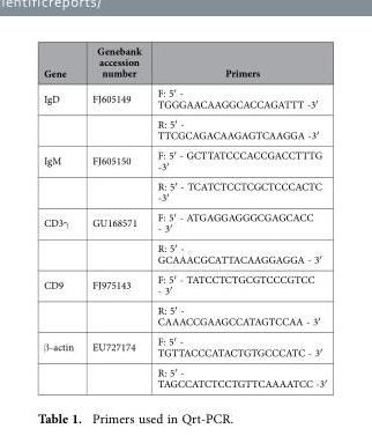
<table><thead><tr><td>Gene</td><td>Genebank accession number</td><td>Primers</td></tr></thead><tbody><tr><td rowspan="2">IgD</td><td>FJ605149</td><td>F: 5′ - TGGGAACAAGGCACCAGATTT -3′</td></tr><tr><td></td><td>R: 5′ - TTCGCAGACAAGAGTCAAGGA -3′</td></tr><tr><td rowspan="2">IgM</td><td>FJ605150</td><td>F: 5′ - GCTTATCCCACCGACCTTTG -3′</td></tr><tr><td></td><td>R: 5′ - TCATCTCCTCGCTCCCACTC -3′</td></tr><tr><td rowspan="2">CD3γ</td><td>GU168571</td><td>F: 5′ - ATGAGGAGGGCGAGCACC - 3′</td></tr><tr><td></td><td>R: 5′ - GCAAACGCATTACAAGGAGGA - 3′</td></tr><tr><td rowspan="2">CD9</td><td>FJ975143</td><td>F: 5′ - TATCCTCTGCGTCCCGTCC - 3′</td></tr><tr><td></td><td>R: 5′ - CAAACCGAAGCCATAGTCCAA - 3′</td></tr><tr><td rowspan="2">β -actin</td><td>EU727174</td><td>F: 5′ - TGTTACCCATACTGTGCCCATC - 3′</td></tr><tr><td></td><td>R: 5′ - TAGCCATCTCCTGTTCAAAATCC -3′</td></tr></tbody></table>